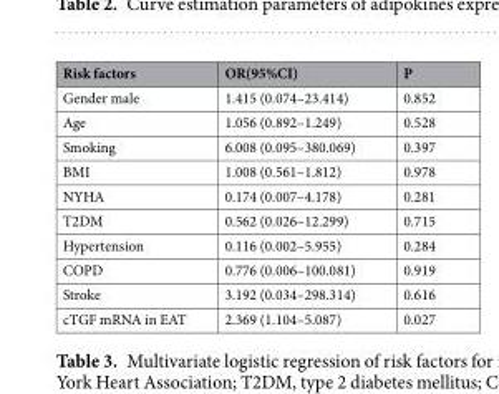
<table><thead><tr><td>Risk factors</td><td>OR(95%CI)</td><td>P</td></tr></thead><tbody><tr><td>Gender male</td><td>1.415 (0.074–23.414)</td><td>0.852</td></tr><tr><td>Age</td><td>1.056 (0.892–1.249)</td><td>0.528</td></tr><tr><td>Smoking</td><td>6.008 (0.095–380.069)</td><td>0.397</td></tr><tr><td>BMI</td><td>1.008 (0.561–1.812)</td><td>0.978</td></tr><tr><td>NYHA</td><td>0.174 (0.007–4.178)</td><td>0.281</td></tr><tr><td>T2DM</td><td>0.562 (0.026–12.299)</td><td>0.715</td></tr><tr><td>Hypertension</td><td>0.116 (0.002–5.955)</td><td>0.284</td></tr><tr><td>COPD</td><td>0.776 (0.006–100.081)</td><td>0.919</td></tr><tr><td>Stroke</td><td>3.192 (0.034–298.314)</td><td>0.616</td></tr><tr><td>cTGF mRNA in EAT</td><td>2.369 (1.104–5.087)</td><td>0.027</td></tr></tbody></table>